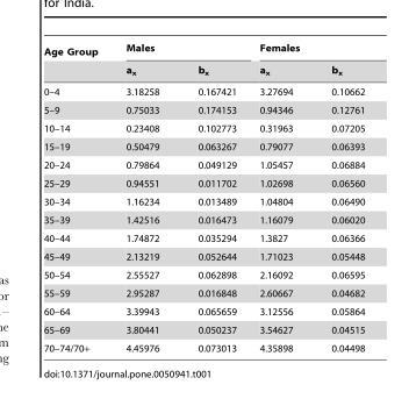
<table><thead><tr><td rowspan="2">Age Group</td><td colspan="2">Males</td><td colspan="2">Females</td></tr><tr><td>a<sub>x</sub></td><td>b<sub>x</sub></td><td>a<sub>x</sub></td><td>b<sub>x</sub></td></tr></thead><tbody><tr><td>0–4</td><td>3.18258</td><td>0.167421</td><td>3.27694</td><td>0.10662</td></tr><tr><td>5–9</td><td>0.75033</td><td>0.174153</td><td>0.94346</td><td>0.12761</td></tr><tr><td>10–14</td><td>0.23408</td><td>0.102773</td><td>0.31963</td><td>0.07205</td></tr><tr><td>15–19</td><td>0.50479</td><td>0.063267</td><td>0.79077</td><td>0.06393</td></tr><tr><td>20–24</td><td>0.79864</td><td>0.049129</td><td>1.05457</td><td>0.06884</td></tr><tr><td>25–29</td><td>0.94551</td><td>0.011702</td><td>1.02698</td><td>0.06560</td></tr><tr><td>30–34</td><td>1.16234</td><td>0.013489</td><td>1.04804</td><td>0.06490</td></tr><tr><td>35–39</td><td>1.42516</td><td>0.016473</td><td>1.16079</td><td>0.06020</td></tr><tr><td>40–44</td><td>1.74872</td><td>0.035294</td><td>1.3827</td><td>0.06366</td></tr><tr><td>45–49</td><td>2.13219</td><td>0.052644</td><td>1.71023</td><td>0.05448</td></tr><tr><td>50–54</td><td>2.55527</td><td>0.062898</td><td>2.16092</td><td>0.06595</td></tr><tr><td>55–59</td><td>2.95287</td><td>0.016848</td><td>2.60667</td><td>0.04682</td></tr><tr><td>60–64</td><td>3.39943</td><td>0.065659</td><td>3.12556</td><td>0.05864</td></tr><tr><td>65–69</td><td>3.80441</td><td>0.050237</td><td>3.54627</td><td>0.04515</td></tr><tr><td>70–74/70+</td><td>4.45976</td><td>0.073013</td><td>4.35898</td><td>0.04498</td></tr></tbody></table>